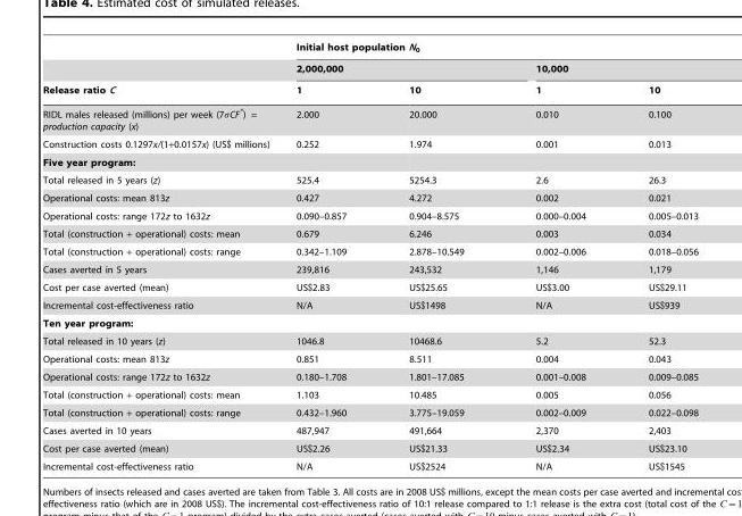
<table><thead><tr><td rowspan="3">Release ratio C</td><td colspan="4">Initial host population N<sub>0</sub></td></tr><tr><td colspan="2">2,000,000</td><td colspan="2">10,000</td></tr><tr><td>1</td><td>10</td><td>1</td><td>10</td></tr></thead><tbody><tr><td>RIDL males released (millions) per week (7σCF*) = production capacity (x)</td><td>2.000</td><td>20.000</td><td>0.010</td><td>0.100</td></tr><tr><td>Construction costs 0.1297x/(1+0.0157x) (US$ millions)</td><td>0.252</td><td>1.974</td><td>0.001</td><td>0.013</td></tr><tr><td colspan="5">Five year program:</td></tr><tr><td>Total released in 5 years (z)</td><td>525.4</td><td>5254.3</td><td>2.6</td><td>26.3</td></tr><tr><td>Operational costs: mean 813z</td><td>0.427</td><td>4.272</td><td>0.002</td><td>0.021</td></tr><tr><td>Operational costs: range 172z to 1632z</td><td>0.090–0.857</td><td>0.904–8.575</td><td>0.000–0.004</td><td>0.005–0.013</td></tr><tr><td>Total (construction + operational) costs: mean</td><td>0.679</td><td>6.246</td><td>0.003</td><td>0.034</td></tr><tr><td>Total (construction + operational) costs: range</td><td>0.342–1.109</td><td>2.878–10.549</td><td>0.002–0.006</td><td>0.018–0.056</td></tr><tr><td>Cases averted in 5 years</td><td>239,816</td><td>243,532</td><td>1,146</td><td>1,179</td></tr><tr><td>Cost per case averted (mean)</td><td>US$2.83</td><td>US$25.65</td><td>US$3.00</td><td>US$29.11</td></tr><tr><td>Incremental cost-effectiveness ratio</td><td>N/A</td><td>US$1498</td><td>N/A</td><td>US$939</td></tr><tr><td colspan="5">Ten year program:</td></tr><tr><td>Total released in 10 years (z)</td><td>1046.8</td><td>10468.6</td><td>5.2</td><td>52.3</td></tr><tr><td>Operational costs: mean 813z</td><td>0.851</td><td>8.511</td><td>0.004</td><td>0.043</td></tr><tr><td>Operational costs: range 172z to 1632z</td><td>0.180–1.708</td><td>1.801–17.085</td><td>0.001–0.008</td><td>0.009–0.085</td></tr><tr><td>Total (construction + operational) costs: mean</td><td>1.103</td><td>10.485</td><td>0.005</td><td>0.056</td></tr><tr><td>Total (construction + operational) costs: range</td><td>0.432–1.960</td><td>3.775–19.059</td><td>0.002–0.009</td><td>0.022–0.098</td></tr><tr><td>Cases averted in 10 years</td><td>487,947</td><td>491,664</td><td>2,370</td><td>2,403</td></tr><tr><td>Cost per case averted (mean)</td><td>US$2.26</td><td>US$21.33</td><td>US$2.34</td><td>US$23.10</td></tr><tr><td>Incremental cost-effectiveness ratio</td><td>N/A</td><td>US$2524</td><td>N/A</td><td>US$1545</td></tr></tbody></table>